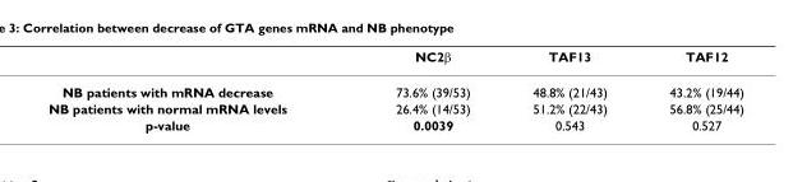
<table><thead><tr><td></td><td>NC2β</td><td>TAF13</td><td>TAF12</td></tr></thead><tbody><tr><td>NB patients with mRNA decrease</td><td>73.6% (39/53)</td><td>48.8% (21/43)</td><td>43.2% (19/44)</td></tr><tr><td>NB patients with normal mRNA levels</td><td>26.4% (14/53)</td><td>51.2% (22/43)</td><td>56.8% (25/44)</td></tr><tr><td>p-value</td><td>0.0039</td><td>0.543</td><td>0.527</td></tr></tbody></table>